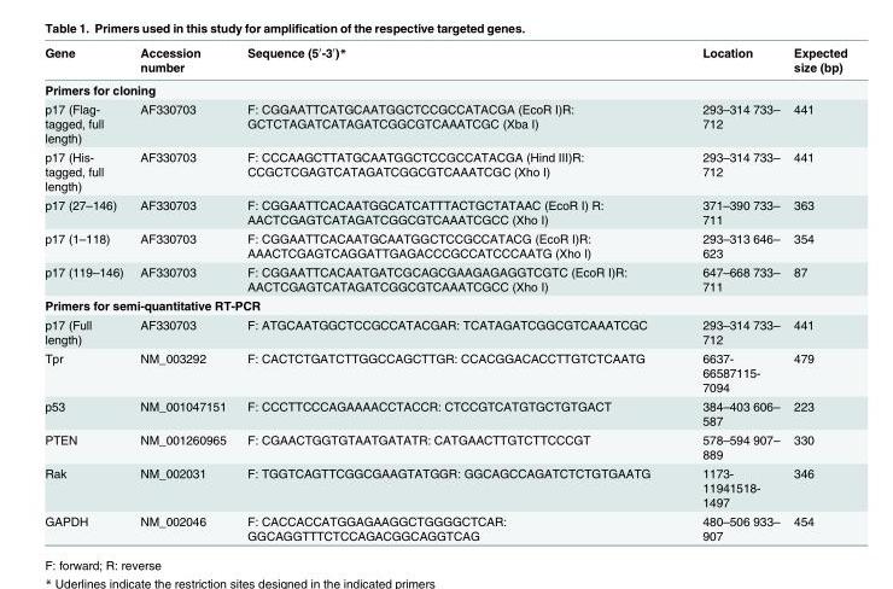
<table><thead><tr><td>Gene</td><td>Accession number</td><td>Sequence (5′-3′)*</td><td>Location</td><td>Expected size (bp)</td></tr></thead><tbody><tr><td colspan="5">Primers for cloning</td></tr><tr><td>p17 (Flag- tagged, full length)</td><td>AF330703</td><td>F: CGGAATTCATGCAATGGCTCCGCCATACGA (EcoR I)R: GCTCTAGATCATAGATCGGCGTCAAATCGC (Xba I)</td><td>293–314 733– 712</td><td>441</td></tr><tr><td>p17 (His- tagged, full length)</td><td>AF330703</td><td>F: CCCAAGCTTATGCAATGGCTCCGCCATACGA (Hind III)R: CCGCTCGAGTCATAGATCGGCGTCAAATCGC (Xho I)</td><td>293–314 733– 712</td><td>441</td></tr><tr><td>p17 (27–146)</td><td>AF330703</td><td>F: CGGAATTCACAATGGCATCATTTACTGCTATAAC (EcoR I) R: AACTCGAGTCATAGATCGGCGTCAAATCGCC (Xho I)</td><td>371–390 733– 711</td><td>363</td></tr><tr><td>p17 (1–118)</td><td>AF330703</td><td>F: CGGAATTCACAATGCAATGGCTCCGCCATACG (EcoR I)R: AAACTCGAGTCAGGATTGAGACCCGCCATCCCAATG (Xho I)</td><td>293–313 646– 623</td><td>354</td></tr><tr><td>p17 (119–146)</td><td>AF330703</td><td>F: CGGAATTCACAATGATCGCAGCGAAGAGAGGTCGTC (EcoR I)R: AACTCGAGTCATAGATCGGCGTCAAATCGCC (Xho I)</td><td>647–668 733– 711</td><td>87</td></tr><tr><td colspan="5">Primers for semi-quantitative RT-PCR</td></tr><tr><td>p17 (Full length)</td><td>AF330703</td><td>F: ATGCAATGGCTCCGCCATACGAR: TCATAGATCGGCGTCAAATCGC</td><td>293–314 733– 712</td><td>441</td></tr><tr><td>Tpr</td><td>NM_003292</td><td>F: CACTCTGATCTTGGCCAGCTTGR: CCACGGACACCTTGTCTCAATG</td><td>6637- 66587115- 7094</td><td>479</td></tr><tr><td>p53</td><td>NM_001047151</td><td>F: CCCTTCCCAGAAAACCTACCR: CTCCGTCATGTGCTGTGACT</td><td>384–403 606– 587</td><td>223</td></tr><tr><td>PTEN</td><td>NM_001260965</td><td>F: CGAACTGGTGTAATGATATR: CATGAACTTGTCTTCCCGT</td><td>578–594 907– 889</td><td>330</td></tr><tr><td>Rak</td><td>NM_002031</td><td>F: TGGTCAGTTCGGCGAAGTATGGR: GGCAGCCAGATCTCTGTGAATG</td><td>1173- 11941518- 1497</td><td>346</td></tr><tr><td>GAPDH</td><td>NM_002046</td><td>F: CACCACCATGGAGAAGGCTGGGGCTCAR: GGCAGGTTTCTCCAGACGGCAGGTCAG</td><td>480–506 933– 907</td><td>454</td></tr></tbody></table>